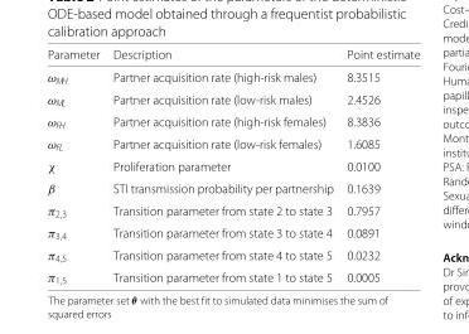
<table><thead><tr><td>Parameter</td><td>Description</td><td>Point estimate</td></tr></thead><tbody><tr><td>ω<sub>MH</sub></td><td>Partner acquisition rate (high-risk males)</td><td>8.3515</td></tr><tr><td>ω<sub>ML</sub></td><td>Partner acquisition rate (low-risk males)</td><td>2.4526</td></tr><tr><td>ω<sub>FH</sub></td><td>Partner acquisition rate (high-risk females)</td><td>8.3836</td></tr><tr><td>ω<sub>FL</sub></td><td>Partner acquisition rate (low-risk females)</td><td>1.6085</td></tr><tr><td>χ</td><td>Proliferation parameter</td><td>0.0100</td></tr><tr><td>β</td><td>STI transmission probability per partnership</td><td>0.1639</td></tr><tr><td>π<sub>2,3</sub></td><td>Transition parameter from state 2 to state 3</td><td>0.7957</td></tr><tr><td>π<sub>3,4</sub></td><td>Transition parameter from state 3 to state 4</td><td>0.0891</td></tr><tr><td>π<sub>4,5</sub></td><td>Transition parameter from state 4 to state 5</td><td>0.0232</td></tr><tr><td>π<sub>1,5</sub></td><td>Transition parameter from state 1 to state 5</td><td>0.0005</td></tr></tbody></table>